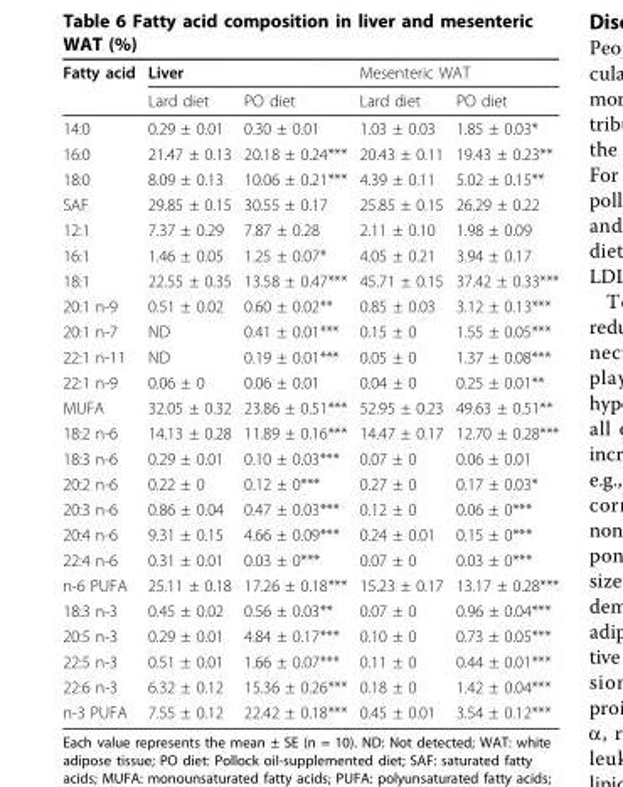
<table><tbody><tr><td rowspan="2">Fatty acid</td><td colspan="2">Liver</td><td colspan="2">Mesenteric WAT</td></tr><tr><td>Lard diet</td><td>PO diet</td><td>Lard diet</td><td>PO diet</td></tr><tr><td>14:0</td><td>0.29 ± 0.01</td><td>0.30 ± 0.01</td><td>1.03 ± 0.03</td><td>1.85 ± 0.03*</td></tr><tr><td>16:0</td><td>21.47 ± 0.13</td><td>20.18 ± 0.24***</td><td>20.43 ± 0.11</td><td>19.43 ± 0.23**</td></tr><tr><td>18:0</td><td>8.09 ± 0.13</td><td>10.06 ± 0.21***</td><td>4.39 ± 0.11</td><td>5.02 ± 0.15**</td></tr><tr><td>SAF</td><td>29.85 ± 0.15</td><td>30.55 ± 0.17</td><td>25.85 ± 0.15</td><td>26.29 ± 0.22</td></tr><tr><td>12:1</td><td>7.37 ± 0.29</td><td>7.87 ± 0.28</td><td>2.11 ± 0.10</td><td>1.98 ± 0.09</td></tr><tr><td>16:1</td><td>1.46 ± 0.05</td><td>1.25 ± 0.07*</td><td>4.05 ± 0.21</td><td>3.94 ± 0.17</td></tr><tr><td>18:1</td><td>22.55 ± 0.35</td><td>13.58 ± 0.47***</td><td>45.71 ± 0.15</td><td>37.42 ± 0.33***</td></tr><tr><td>20:1 n-9</td><td>0.51 ± 0.02</td><td>0.60 ± 0.02**</td><td>0.85 ± 0.03</td><td>3.12 ± 0.13***</td></tr><tr><td>20:1 n-7</td><td>ND</td><td>0.41 ± 0.01***</td><td>0.15 ± 0</td><td>1.55 ± 0.05***</td></tr><tr><td>22:1 n-11</td><td>ND</td><td>0.19 ± 0.01***</td><td>0.05 ± 0</td><td>1.37 ± 0.08***</td></tr><tr><td>22:1 n-9</td><td>0.06 ± 0</td><td>0.06 ± 0.01</td><td>0.04 ± 0</td><td>0.25 ± 0.01**</td></tr><tr><td>MUFA</td><td>32.05 ± 0.32</td><td>23.86 ± 0.51***</td><td>52.95 ± 0.23</td><td>49.63 ± 0.51**</td></tr><tr><td>18:2 n-6</td><td>14.13 ± 0.28</td><td>11.89 ± 0.16***</td><td>14.47 ± 0.17</td><td>12.70 ± 0.28***</td></tr><tr><td>18:3 n-6</td><td>0.29 ± 0.01</td><td>0.10 ± 0.03***</td><td>0.07 ± 0</td><td>0.06 ± 0.01</td></tr><tr><td>20:2 n-6</td><td>0.22 ± 0</td><td>0.12 ± 0***</td><td>0.27 ± 0</td><td>0.17 ± 0.03*</td></tr><tr><td>20:3 n-6</td><td>0.86 ± 0.04</td><td>0.47 ± 0.03***</td><td>0.12 ± 0</td><td>0.06 ± 0***</td></tr><tr><td>20:4 n-6</td><td>9.31 ± 0.15</td><td>4.66 ± 0.09***</td><td>0.24 ± 0.01</td><td>0.15 ± 0***</td></tr><tr><td>22:4 n-6</td><td>0.31 ± 0.01</td><td>0.03 ± 0***</td><td>0.07 ± 0</td><td>0.03 ± 0***</td></tr><tr><td>n-6 PUFA</td><td>25.11 ± 0.18</td><td>17.26 ± 0.18***</td><td>15.23 ± 0.17</td><td>13.17 ± 0.28***</td></tr><tr><td>18:3 n-3</td><td>0.45 ± 0.02</td><td>0.56 ± 0.03**</td><td>0.07 ± 0</td><td>0.96 ± 0.04***</td></tr><tr><td>20:5 n-3</td><td>0.29 ± 0.01</td><td>4.84 ± 0.17***</td><td>0.10 ± 0</td><td>0.73 ± 0.05***</td></tr><tr><td>22:5 n-3</td><td>0.51 ± 0.01</td><td>1.66 ± 0.07***</td><td>0.11 ± 0</td><td>0.44 ± 0.01***</td></tr><tr><td>22:6 n-3</td><td>6.32 ± 0.12</td><td>15.36 ± 0.26***</td><td>0.18 ± 0</td><td>1.42 ± 0.04***</td></tr><tr><td>n-3 PUFA</td><td>7.55 ± 0.12</td><td>22.42 ± 0.18***</td><td>0.45 ± 0.01</td><td>3.54 ± 0.12***</td></tr></tbody></table>